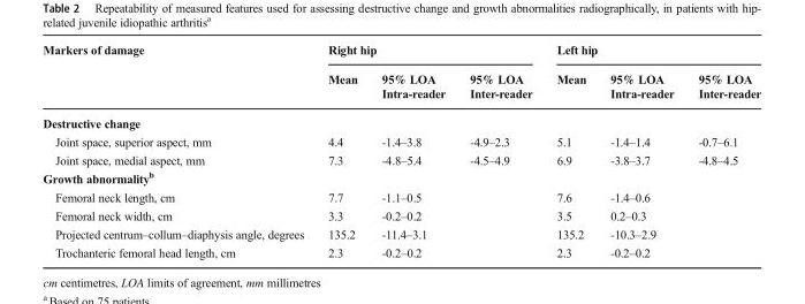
<table><thead><tr><td rowspan="2">Markers of damage</td><td colspan="3">Right hip</td><td colspan="3">Left hip</td></tr><tr><td>Mean</td><td>95% LOA Intra-reader</td><td>95% LOA Inter-reader</td><td>Mean</td><td>95% LOA Intra-reader</td><td>95% LOA Inter-reader</td></tr></thead><tbody><tr><td colspan="7">Destructive change</td></tr><tr><td>Joint space, superior aspect, mm</td><td>4.4</td><td>-1.4–3.8</td><td>-4.9–2.3</td><td>5.1</td><td>-1.4–1.4</td><td>-0.7–6.1</td></tr><tr><td>Joint space, medial aspect, mm</td><td>7.3</td><td>-4.8–5.4</td><td>-4.5–4.9</td><td>6.9</td><td>-3.8–3.7</td><td>-4.8–4.5</td></tr><tr><td colspan="7">Growth abnormality<sup>b</sup></td></tr><tr><td>Femoral neck length, cm</td><td>7.7</td><td>-1.1–0.5</td><td></td><td>7.6</td><td>-1.4–0.6</td><td></td></tr><tr><td>Femoral neck width, cm</td><td>3.3</td><td>-0.2–0.2</td><td></td><td>3.5</td><td>0.2–0.3</td><td></td></tr><tr><td>Projected centrum–collum–diaphysis angle, degrees</td><td>135.2</td><td>-11.4–3.1</td><td></td><td>135.2</td><td>-10.3–2.9</td><td></td></tr><tr><td>Trochanteric femoral head length, cm</td><td>2.3</td><td>-0.2–0.2</td><td></td><td>2.3</td><td>-0.2–0.2</td><td></td></tr></tbody></table>